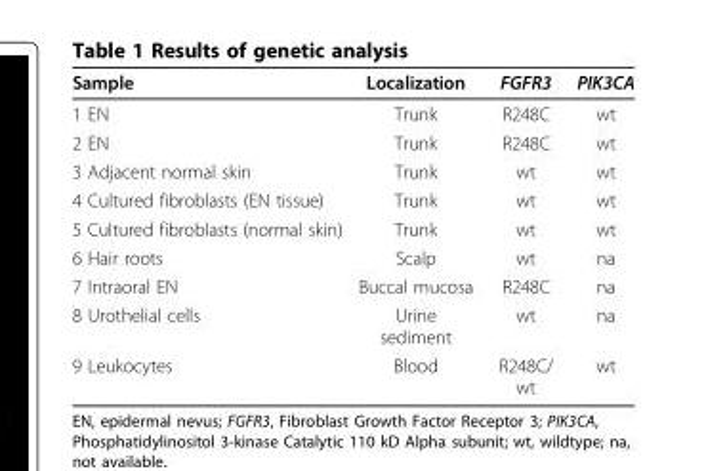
<table><thead><tr><td>Sample</td><td>Localization</td><td>FGFR3</td><td>PIK3CA</td></tr></thead><tbody><tr><td>1 EN</td><td>Trunk</td><td>R248C</td><td>wt</td></tr><tr><td>2 EN</td><td>Trunk</td><td>R248C</td><td>wt</td></tr><tr><td>3 Adjacent normal skin</td><td>Trunk</td><td>wt</td><td>wt</td></tr><tr><td>4 Cultured fibroblasts (EN tissue)</td><td>Trunk</td><td>wt</td><td>wt</td></tr><tr><td>5 Cultured fibroblasts (normal skin)</td><td>Trunk</td><td>wt</td><td>wt</td></tr><tr><td>6 Hair roots</td><td>Scalp</td><td>wt</td><td>na</td></tr><tr><td>7 Intraoral EN</td><td>Buccal mucosa</td><td>R248C</td><td>na</td></tr><tr><td>8 Urothelial cells</td><td>Urine sediment</td><td>wt</td><td>na</td></tr><tr><td>9 Leukocytes</td><td>Blood</td><td>R248C/ wt</td><td>wt</td></tr></tbody></table>